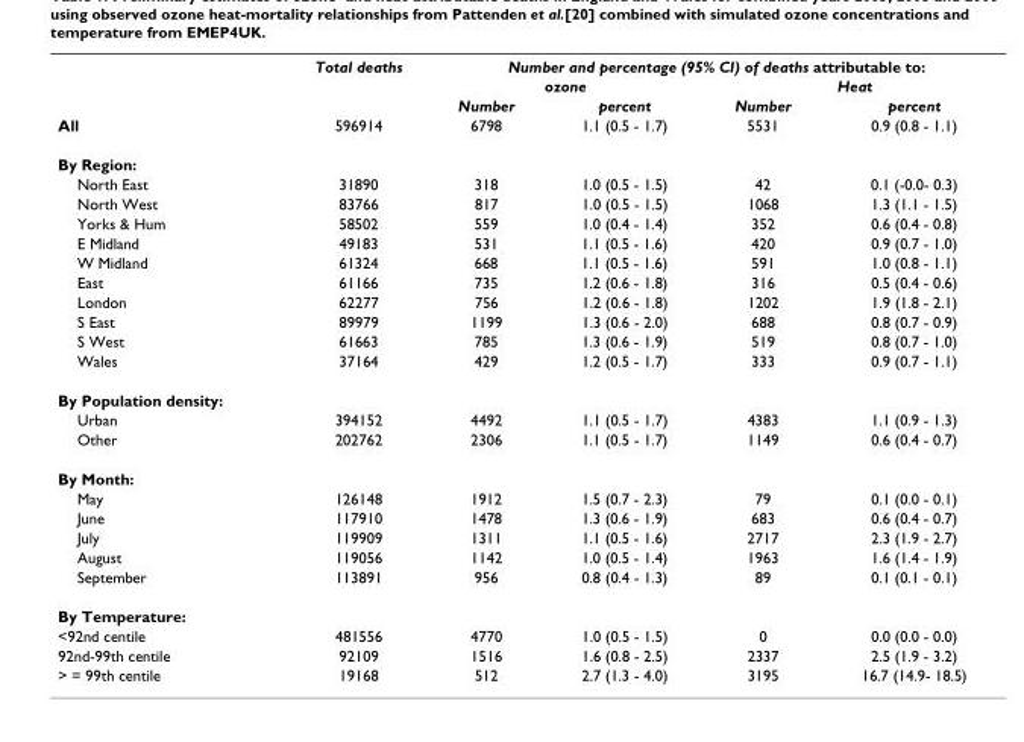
<table><thead><tr><td rowspan="3"></td><td rowspan="3">Total deaths</td><td colspan="4">Number and percentage (95% CI) of deaths attributable to:</td></tr><tr><td colspan="2">ozone</td><td colspan="2">Heat</td></tr><tr><td>Number</td><td>percent</td><td>Number</td><td>percent</td></tr></thead><tbody><tr><td>All</td><td>596914</td><td>6798</td><td>1.1 (0.5 - 1.7)</td><td>5531</td><td>0.9 (0.8 - 1.1)</td></tr><tr><td colspan="6">By Region:</td></tr><tr><td>North East</td><td>31890</td><td>318</td><td>1.0 (0.5 - 1.5)</td><td>42</td><td>0.1 (-0.0- 0.3)</td></tr><tr><td>North West</td><td>83766</td><td>817</td><td>1.0 (0.5 - 1.5)</td><td>1068</td><td>1.3 (1.1 - 1.5)</td></tr><tr><td>Yorks &amp; Hum</td><td>58502</td><td>559</td><td>1.0 (0.4 - 1.4)</td><td>352</td><td>0.6 (0.4 - 0.8)</td></tr><tr><td>E Midland</td><td>49183</td><td>531</td><td>1.1 (0.5 - 1.6)</td><td>420</td><td>0.9 (0.7 - 1.0)</td></tr><tr><td>W Midland</td><td>61324</td><td>668</td><td>1.1 (0.5 - 1.6)</td><td>591</td><td>1.0 (0.8 - 1.1)</td></tr><tr><td>East</td><td>61166</td><td>735</td><td>1.2 (0.6 - 1.8)</td><td>316</td><td>0.5 (0.4 - 0.6)</td></tr><tr><td>London</td><td>62277</td><td>756</td><td>1.2 (0.6 - 1.8)</td><td>1202</td><td>1.9 (1.8 - 2.1)</td></tr><tr><td>S East</td><td>89979</td><td>1199</td><td>1.3 (0.6 - 2.0)</td><td>688</td><td>0.8 (0.7 - 0.9)</td></tr><tr><td>S West</td><td>61663</td><td>785</td><td>1.3 (0.6 - 1.9)</td><td>519</td><td>0.8 (0.7 - 1.0)</td></tr><tr><td>Wales</td><td>37164</td><td>429</td><td>1.2 (0.5 - 1.7)</td><td>333</td><td>0.9 (0.7 - 1.1)</td></tr><tr><td colspan="6">By Population density:</td></tr><tr><td>Urban</td><td>394152</td><td>4492</td><td>1.1 (0.5 - 1.7)</td><td>4383</td><td>1.1 (0.9 - 1.3)</td></tr><tr><td>Other</td><td>202762</td><td>2306</td><td>1.1 (0.5 - 1.7)</td><td>1149</td><td>0.6 (0.4 - 0.7)</td></tr><tr><td colspan="6">By Month:</td></tr><tr><td>May</td><td>126148</td><td>1912</td><td>1.5 (0.7 - 2.3)</td><td>79</td><td>0.1 (0.0 - 0.1)</td></tr><tr><td>June</td><td>117910</td><td>1478</td><td>1.3 (0.6 - 1.9)</td><td>683</td><td>0.6 (0.4 - 0.7)</td></tr><tr><td>July</td><td>119909</td><td>1311</td><td>1.1 (0.5 - 1.6)</td><td>2717</td><td>2.3 (1.9 - 2.7)</td></tr><tr><td>August</td><td>119056</td><td>1142</td><td>1.0 (0.5 - 1.4)</td><td>1963</td><td>1.6 (1.4 - 1.9)</td></tr><tr><td>September</td><td>113891</td><td>956</td><td>0.8 (0.4 - 1.3)</td><td>89</td><td>0.1 (0.1 - 0.1)</td></tr><tr><td colspan="6">By Temperature:</td></tr><tr><td>&lt;92nd centile</td><td>481556</td><td>4770</td><td>1.0 (0.5 - 1.5)</td><td>0</td><td>0.0 (0.0 - 0.0)</td></tr><tr><td>92nd-99th centile</td><td>92109</td><td>1516</td><td>1.6 (0.8 - 2.5)</td><td>2337</td><td>2.5 (1.9 - 3.2)</td></tr><tr><td>&gt; = 99th centile</td><td>19168</td><td>512</td><td>2.7 (1.3 - 4.0)</td><td>3195</td><td>16.7 (14.9- 18.5)</td></tr></tbody></table>